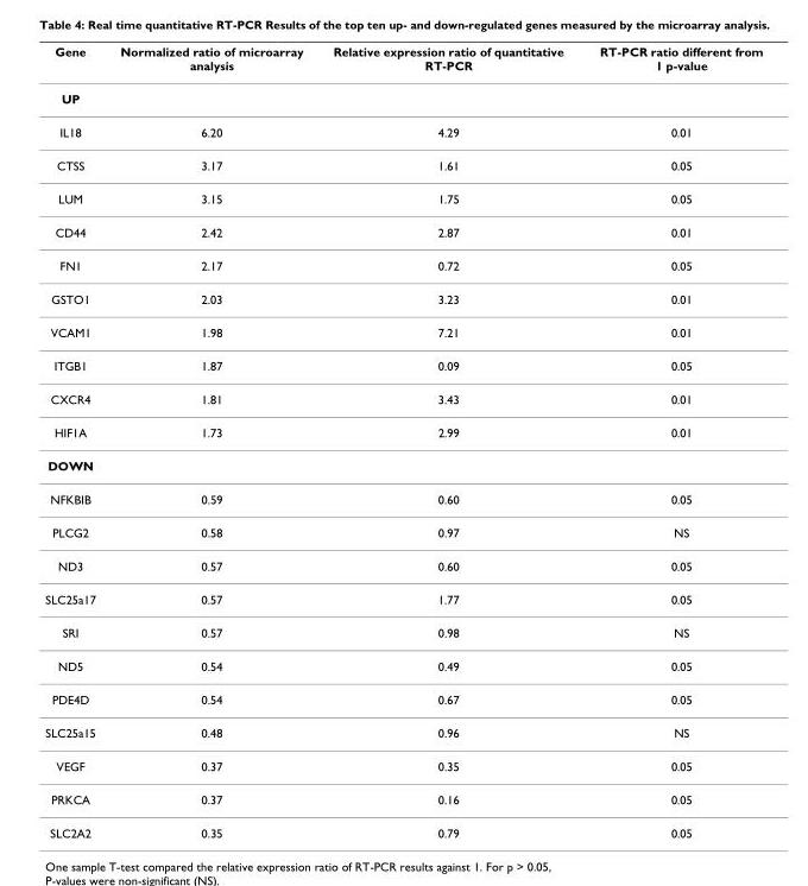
<table><thead><tr><td>Gene</td><td>Normalized ratio of microarray analysis</td><td>Relative expression ratio of quantitative RT-PCR</td><td>RT-PCR ratio different from 1 p-value</td></tr></thead><tbody><tr><td colspan="4">UP</td></tr><tr><td>IL18</td><td>6.20</td><td>4.29</td><td>0.01</td></tr><tr><td>CTSS</td><td>3.17</td><td>1.61</td><td>0.05</td></tr><tr><td>LUM</td><td>3.15</td><td>1.75</td><td>0.05</td></tr><tr><td>CD44</td><td>2.42</td><td>2.87</td><td>0.01</td></tr><tr><td>FN1</td><td>2.17</td><td>0.72</td><td>0.05</td></tr><tr><td>GSTO1</td><td>2.03</td><td>3.23</td><td>0.01</td></tr><tr><td>VCAM1</td><td>1.98</td><td>7.21</td><td>0.01</td></tr><tr><td>ITGB1</td><td>1.87</td><td>0.09</td><td>0.05</td></tr><tr><td>CXCR4</td><td>1.81</td><td>3.43</td><td>0.01</td></tr><tr><td>HIF1A</td><td>1.73</td><td>2.99</td><td>0.01</td></tr><tr><td colspan="4">DOWN</td></tr><tr><td>NFKBIB</td><td>0.59</td><td>0.60</td><td>0.05</td></tr><tr><td>PLCG2</td><td>0.58</td><td>0.97</td><td>NS</td></tr><tr><td>ND3</td><td>0.57</td><td>0.60</td><td>0.05</td></tr><tr><td>SLC25a17</td><td>0.57</td><td>1.77</td><td>0.05</td></tr><tr><td>SRI</td><td>0.57</td><td>0.98</td><td>NS</td></tr><tr><td>ND5</td><td>0.54</td><td>0.49</td><td>0.05</td></tr><tr><td>PDE4D</td><td>0.54</td><td>0.67</td><td>0.05</td></tr><tr><td>SLC25a15</td><td>0.48</td><td>0.96</td><td>NS</td></tr><tr><td>VEGF</td><td>0.37</td><td>0.35</td><td>0.05</td></tr><tr><td>PRKCA</td><td>0.37</td><td>0.16</td><td>0.05</td></tr><tr><td>SLC2A2</td><td>0.35</td><td>0.79</td><td>0.05</td></tr></tbody></table>